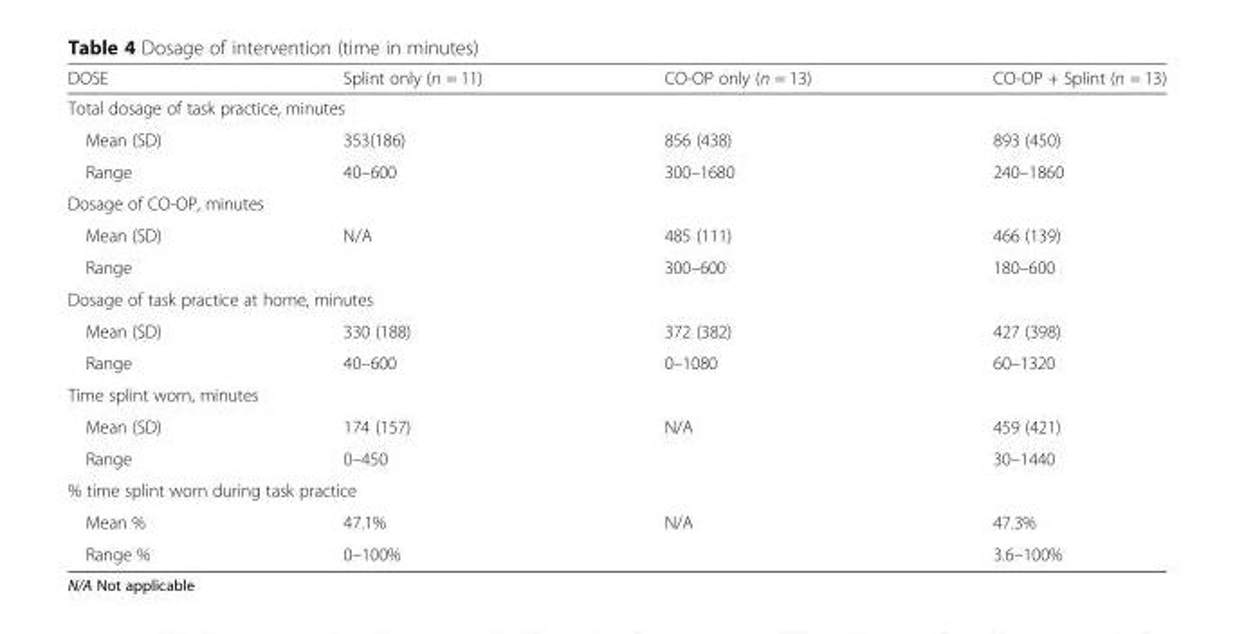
<table><thead><tr><td>DOSE</td><td>Splint only (n = 11)</td><td>CO-OP only (n = 13)</td><td>CO-OP + Splint (n = 13)</td></tr></thead><tbody><tr><td colspan="4">Total dosage of task practice, minutes</td></tr><tr><td>Mean (SD)</td><td>353(186)</td><td>856 (438)</td><td>893 (450)</td></tr><tr><td>Range</td><td>40–600</td><td>300–1680</td><td>240–1860</td></tr><tr><td colspan="4">Dosage of CO-OP, minutes</td></tr><tr><td>Mean (SD)</td><td>N/A</td><td>485 (111)</td><td>466 (139)</td></tr><tr><td>Range</td><td></td><td>300–600</td><td>180–600</td></tr><tr><td colspan="4">Dosage of task practice at home, minutes</td></tr><tr><td>Mean (SD)</td><td>330 (188)</td><td>372 (382)</td><td>427 (398)</td></tr><tr><td>Range</td><td>40–600</td><td>0–1080</td><td>60–1320</td></tr><tr><td colspan="4">Time splint worn, minutes</td></tr><tr><td>Mean (SD)</td><td>174 (157)</td><td>N/A</td><td>459 (421)</td></tr><tr><td>Range</td><td>0–450</td><td></td><td>30–1440</td></tr><tr><td colspan="4">% time splint worn during task practice</td></tr><tr><td>Mean %</td><td>47.1%</td><td>N/A</td><td>47.3%</td></tr><tr><td>Range %</td><td>0–100%</td><td></td><td>3.6–100%</td></tr></tbody></table>